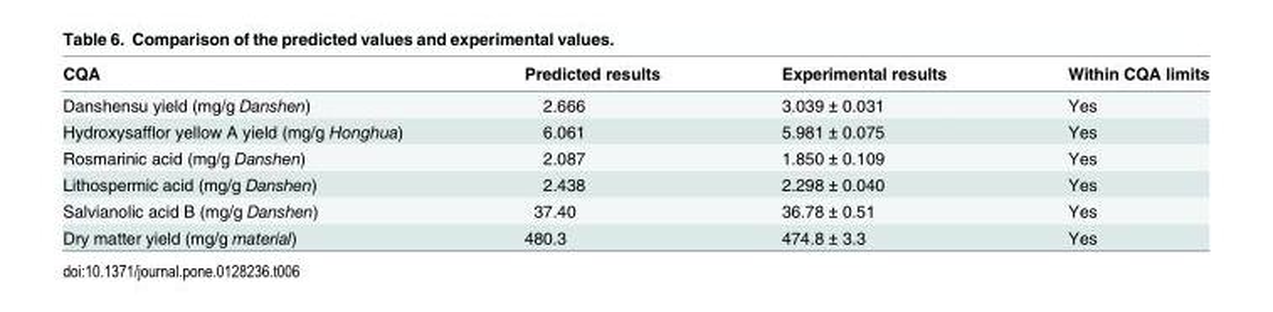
<table><thead><tr><td>CQA</td><td>Predicted results</td><td>Experimental results</td><td>Within CQA limits</td></tr></thead><tbody><tr><td>Danshensu yield (mg/g Danshen)</td><td>2.666</td><td>3.039 ± 0.031</td><td>Yes</td></tr><tr><td>Hydroxysafflor yellow A yield (mg/g Honghua)</td><td>6.061</td><td>5.981 ± 0.075</td><td>Yes</td></tr><tr><td>Rosmarinic acid (mg/g Danshen)</td><td>2.087</td><td>1.850 ± 0.109</td><td>Yes</td></tr><tr><td>Lithospermic acid (mg/g Danshen)</td><td>2.438</td><td>2.298 ± 0.040</td><td>Yes</td></tr><tr><td>Salvianolic acid B (mg/g Danshen)</td><td>37.40</td><td>36.78 ± 0.51</td><td>Yes</td></tr><tr><td>Dry matter yield (mg/g material)</td><td>480.3</td><td>474.8 ± 3.3</td><td>Yes</td></tr></tbody></table>